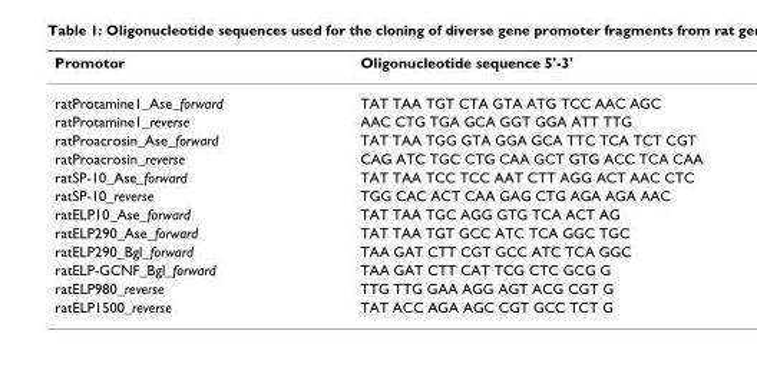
<table><thead><tr><td>Promotor</td><td>Oligonucleotide sequence 5&#x27;-3&#x27;</td></tr></thead><tbody><tr><td>ratProtamine1_Ase_forward</td><td>TAT TAA TGT CTA GTA ATG TCC AAC AGC</td></tr><tr><td>ratProtamine1_reverse</td><td>AAC CTG TGA GCA GGT GGA ATT TTG</td></tr><tr><td>ratProacrosin_Ase_forward</td><td>TAT TAA TGG GTA GGA GCA TTC TCA TCT CGT</td></tr><tr><td>ratProacrosin_reverse</td><td>CAG ATC TGC CTG CAA GCT GTG ACC TCA CAA</td></tr><tr><td>ratSP-10_Ase_forward</td><td>TAT TAA TCC TCC AAT CTT AGG ACT AAC CTC</td></tr><tr><td>ratSP-10_reverse</td><td>TGG CAC ACT CAA GAG CTG AGA AGA AAC</td></tr><tr><td>ratELP10_Ase_forward</td><td>TAT TAA TGC AGG GTG TCA ACT AG</td></tr><tr><td>ratELP290_Ase_forward</td><td>TAT TAA TGT GCC ATC TCA GGC TGC</td></tr><tr><td>ratELP290_Bgl_forward</td><td>TAA GAT CTT CGT GCC ATC TCA GGC</td></tr><tr><td>ratELP-GCNF_Bgl_forward</td><td>TAA GAT CTT CAT TCG CTC GCG G</td></tr><tr><td>ratELP980_reverse</td><td>TTG TTG GAA AGG AGT ACG CGT G</td></tr><tr><td>ratELP1500_reverse</td><td>TAT ACC AGA AGC CGT GCC TCT G</td></tr></tbody></table>